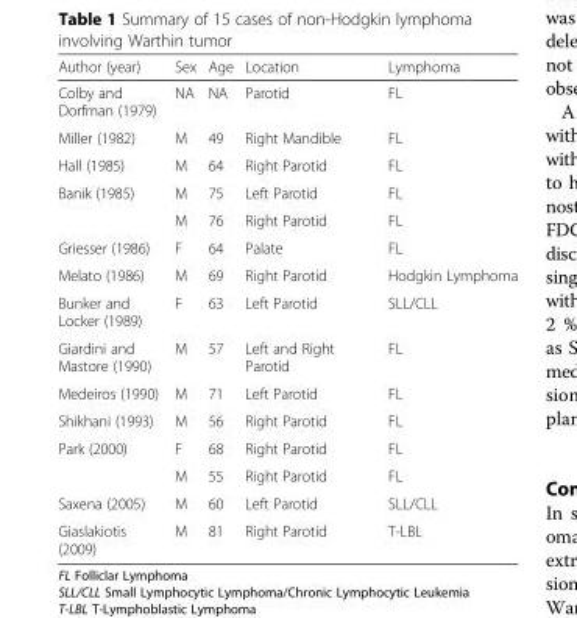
<table><thead><tr><td>Author (year)</td><td>Sex</td><td>Age</td><td>Location</td><td>Lymphoma</td></tr></thead><tbody><tr><td>Colby and Dorfman (1979)</td><td>NA</td><td>NA</td><td>Parotid</td><td>FL</td></tr><tr><td>Miller (1982)</td><td>M</td><td>49</td><td>Right Mandible</td><td>FL</td></tr><tr><td>Hall (1985)</td><td>M</td><td>64</td><td>Right Parotid</td><td>FL</td></tr><tr><td rowspan="2">Banik (1985)</td><td>M</td><td>75</td><td>Left Parotid</td><td>FL</td></tr><tr><td>M</td><td>76</td><td>Right Parotid</td><td>FL</td></tr><tr><td>Griesser (1986)</td><td>F</td><td>64</td><td>Palate</td><td>FL</td></tr><tr><td>Melato (1986)</td><td>M</td><td>69</td><td>Right Parotid</td><td>Hodgkin Lymphoma</td></tr><tr><td>Bunker and Locker (1989)</td><td>F</td><td>63</td><td>Left Parotid</td><td>SLL/CLL</td></tr><tr><td>Giardini and Mastore (1990)</td><td>M</td><td>57</td><td>Left and Right Parotid</td><td>FL</td></tr><tr><td>Medeiros (1990)</td><td>M</td><td>71</td><td>Left Parotid</td><td>FL</td></tr><tr><td>Shikhani (1993)</td><td>M</td><td>56</td><td>Right Parotid</td><td>FL</td></tr><tr><td rowspan="2">Park (2000)</td><td>F</td><td>68</td><td>Right Parotid</td><td>FL</td></tr><tr><td>M</td><td>55</td><td>Right Parotid</td><td>FL</td></tr><tr><td>Saxena (2005)</td><td>M</td><td>60</td><td>Left Parotid</td><td>SLL/CLL</td></tr><tr><td>Giaslakiotis (2009)</td><td>M</td><td>81</td><td>Right Parotid</td><td>T-LBL</td></tr></tbody></table>